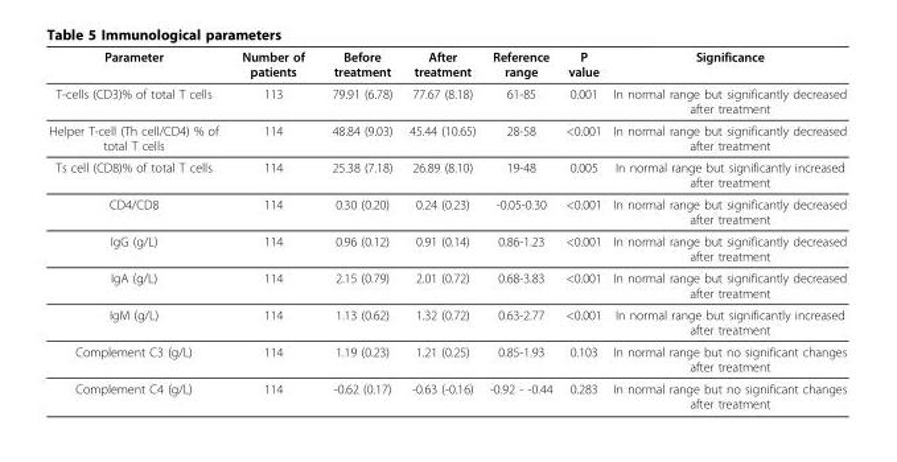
<table><thead><tr><td>Parameter</td><td>Number of patients</td><td>Before treatment</td><td>After treatment</td><td>Reference range</td><td>P value</td><td>Significance</td></tr></thead><tbody><tr><td>T-cells (CD3)% of total T cells</td><td>113</td><td>79.91 (6.78)</td><td>77.67 (8.18)</td><td>61-85</td><td>0.001</td><td>In normal range but significantly decreased after treatment</td></tr><tr><td>Helper T-cell (Th cell/CD4) % of total T cells</td><td>114</td><td>48.84 (9.03)</td><td>45.44 (10.65)</td><td>28-58</td><td>&lt;0.001</td><td>In normal range but significantly decreased after treatment</td></tr><tr><td>Ts cell (CD8)% of total T cells</td><td>114</td><td>25.38 (7.18)</td><td>26.89 (8.10)</td><td>19-48</td><td>0.005</td><td>In normal range but significantly increased after treatment</td></tr><tr><td>CD4/CD8</td><td>114</td><td>0.30 (0.20)</td><td>0.24 (0.23)</td><td>-0.05-0.30</td><td>&lt;0.001</td><td>In normal range but significantly decreased after treatment</td></tr><tr><td>IgG (g/L)</td><td>114</td><td>0.96 (0.12)</td><td>0.91 (0.14)</td><td>0.86-1.23</td><td>&lt;0.001</td><td>In normal range but significantly decreased after treatment</td></tr><tr><td>IgA (g/L)</td><td>114</td><td>2.15 (0.79)</td><td>2.01 (0.72)</td><td>0.68-3.83</td><td>&lt;0.001</td><td>In normal range but significantly decreased after treatment</td></tr><tr><td>IgM (g/L)</td><td>114</td><td>1.13 (0.62)</td><td>1.32 (0.72)</td><td>0.63-2.77</td><td>&lt;0.001</td><td>In normal range but significantly increased after treatment</td></tr><tr><td>Complement C3 (g/L)</td><td>114</td><td>1.19 (0.23)</td><td>1.21 (0.25)</td><td>0.85-1.93</td><td>0.103</td><td>In normal range but no significant changes after treatment</td></tr><tr><td>Complement C4 (g/L)</td><td>114</td><td>-0.62 (0.17)</td><td>-0.63 (-0.16)</td><td>-0.92 - -0.44</td><td>0.283</td><td>In normal range but no significant changes after treatment</td></tr></tbody></table>